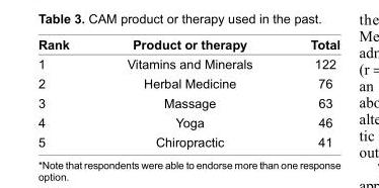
<table><thead><tr><td>Rank</td><td>Product or therapy</td><td>Total</td></tr></thead><tbody><tr><td>1</td><td>Vitamins and Minerals</td><td>122</td></tr><tr><td>2</td><td>Herbal Medicine</td><td>76</td></tr><tr><td>3</td><td>Massage</td><td>63</td></tr><tr><td>4</td><td>Yoga</td><td>46</td></tr><tr><td>5</td><td>Chiropractic</td><td>41</td></tr></tbody></table>